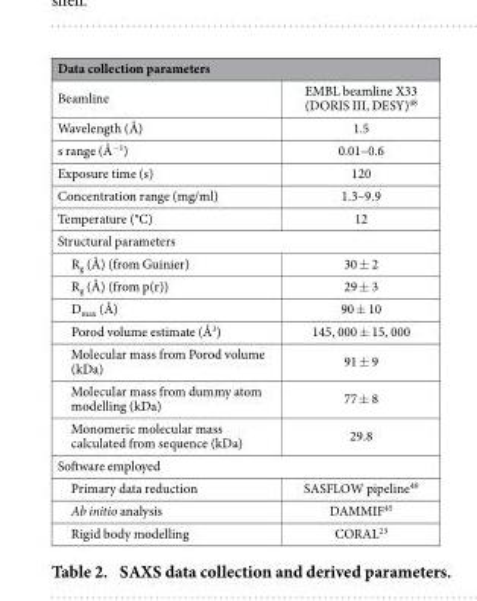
<table><thead><tr><td colspan="2">Data collection parameters</td></tr><tr><td>Beamline</td><td>EMBL beamline X33 (DORIS III, DESY)<sup>48</sup></td></tr></thead><tbody><tr><td>Wavelength (Å)</td><td>1.5</td></tr><tr><td>s range (Å<sup>−1</sup>)</td><td>0.01–0.6</td></tr><tr><td>Exposure time (s)</td><td>120</td></tr><tr><td>Concentration range (mg/ml)</td><td>1.3–9.9</td></tr><tr><td>Temperature (°C)</td><td>12</td></tr><tr><td colspan="2">Structural parameters</td></tr><tr><td>R<sub>g</sub> (Å) (from Guinier)</td><td>30 ± 2</td></tr><tr><td>R<sub>g</sub> (Å) (from p(r))</td><td>29 ± 3</td></tr><tr><td>D<sub>max</sub> (Å)</td><td>90 ± 10</td></tr><tr><td>Porod volume estimate (Å<sup>3</sup>)</td><td>145, 000 ± 15, 000</td></tr><tr><td>Molecular mass from Porod volume (kDa)</td><td>91 ± 9</td></tr><tr><td>Molecular mass from dummy atom modelling (kDa)</td><td>77 ± 8</td></tr><tr><td>Monomeric molecular mass calculated from sequence (kDa)</td><td>29.8</td></tr><tr><td colspan="2">Software employed</td></tr><tr><td>Primary data reduction</td><td>SASFLOW pipeline<sup>49</sup></td></tr><tr><td>Ab initio analysis</td><td>DAMMIF<sup>45</sup></td></tr><tr><td>Rigid body modelling</td><td>CORAL<sup>23</sup></td></tr></tbody></table>